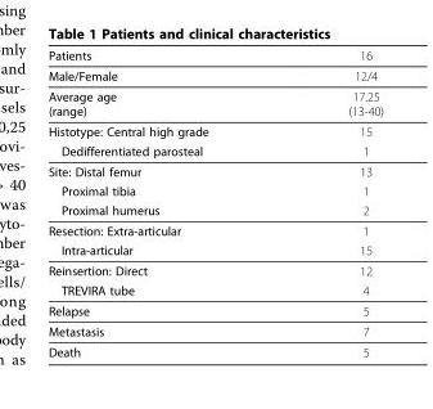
<table><thead><tr><td>Patients</td><td>16</td></tr></thead><tbody><tr><td>Male/Female</td><td>12/4</td></tr><tr><td>Average age (range)</td><td>17.25 (13-40)</td></tr><tr><td>Histotype: Central high grade</td><td>15</td></tr><tr><td>Dedifferentiated parosteal</td><td>1</td></tr><tr><td>Site: Distal femur</td><td>13</td></tr><tr><td>Proximal tibia</td><td>1</td></tr><tr><td>Proximal humerus</td><td>2</td></tr><tr><td>Resection: Extra-articular</td><td>1</td></tr><tr><td>Intra-articular</td><td>15</td></tr><tr><td>Reinsertion: Direct</td><td>12</td></tr><tr><td>TREVIRA tube</td><td>4</td></tr><tr><td>Relapse</td><td>5</td></tr><tr><td>Metastasis</td><td>7</td></tr><tr><td>Death</td><td>5</td></tr></tbody></table>